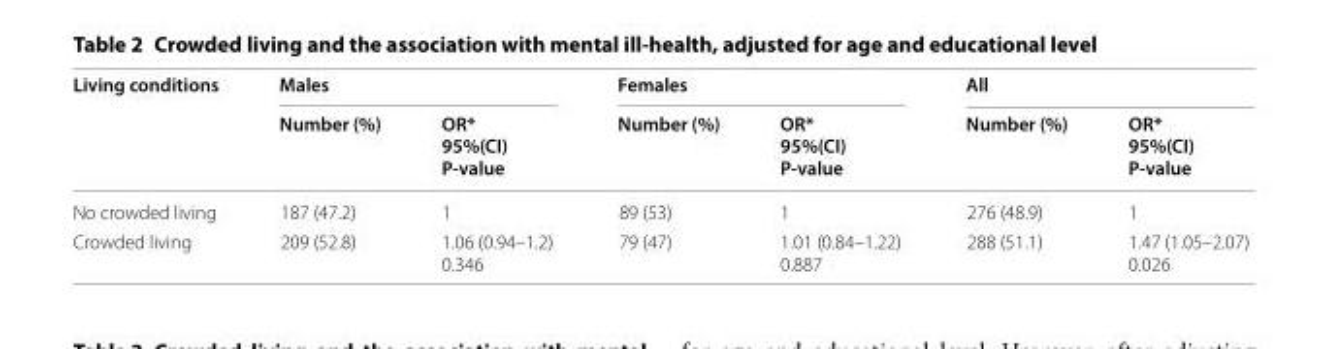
<table><thead><tr><td rowspan="2">Living conditions</td><td colspan="2">Males</td><td colspan="2">Females</td><td colspan="2">All</td></tr><tr><td>Number (%)</td><td>OR* 95%(CI) P-value</td><td>Number (%)</td><td>OR* 95%(CI) P-value</td><td>Number (%)</td><td>OR* 95%(CI) P-value</td></tr></thead><tbody><tr><td>No crowded living</td><td>187 (47.2)</td><td>1</td><td>89 (53)</td><td>1</td><td>276 (48.9)</td><td>1</td></tr><tr><td>Crowded living</td><td>209 (52.8)</td><td>1.06 (0.94–1.2) 0.346</td><td>79 (47)</td><td>1.01 (0.84–1.22) 0.887</td><td>288 (51.1)</td><td>1.47 (1.05–2.07) 0.026</td></tr></tbody></table>